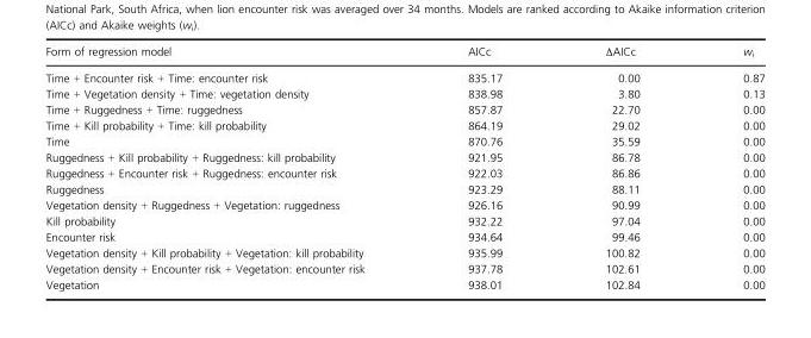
<table><thead><tr><td>Form of regression model</td><td>AICc</td><td>ΔAICc</td><td>w<sub>i</sub></td></tr></thead><tbody><tr><td>Time + Encounter risk + Time: encounter risk</td><td>835.17</td><td>0.00</td><td>0.87</td></tr><tr><td>Time + Vegetation density + Time: vegetation density</td><td>838.98</td><td>3.80</td><td>0.13</td></tr><tr><td>Time + Ruggedness + Time: ruggedness</td><td>857.87</td><td>22.70</td><td>0.00</td></tr><tr><td>Time + Kill probability + Time: kill probability</td><td>864.19</td><td>29.02</td><td>0.00</td></tr><tr><td>Time</td><td>870.76</td><td>35.59</td><td>0.00</td></tr><tr><td>Ruggedness + Kill probability + Ruggedness: kill probability</td><td>921.95</td><td>86.78</td><td>0.00</td></tr><tr><td>Ruggedness + Encounter risk + Ruggedness: encounter risk</td><td>922.03</td><td>86.86</td><td>0.00</td></tr><tr><td>Ruggedness</td><td>923.29</td><td>88.11</td><td>0.00</td></tr><tr><td>Vegetation density + Ruggedness + Vegetation: ruggedness</td><td>926.16</td><td>90.99</td><td>0.00</td></tr><tr><td>Kill probability</td><td>932.22</td><td>97.04</td><td>0.00</td></tr><tr><td>Encounter risk</td><td>934.64</td><td>99.46</td><td>0.00</td></tr><tr><td>Vegetation density + Kill probability + Vegetation: kill probability</td><td>935.99</td><td>100.82</td><td>0.00</td></tr><tr><td>Vegetation density + Encounter risk + Vegetation: encounter risk</td><td>937.78</td><td>102.61</td><td>0.00</td></tr><tr><td>Vegetation</td><td>938.01</td><td>102.84</td><td>0.00</td></tr></tbody></table>